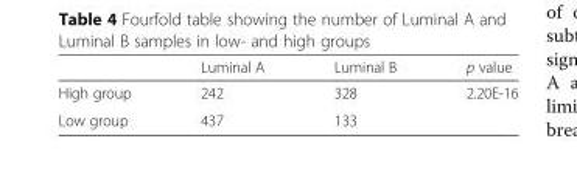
<table><thead><tr><td></td><td>Luminal A</td><td>Luminal B</td><td>p value</td></tr></thead><tbody><tr><td>High group</td><td>242</td><td>328</td><td rowspan="2">2.20E-16</td></tr><tr><td>Low group</td><td>437</td><td>133</td></tr></tbody></table>